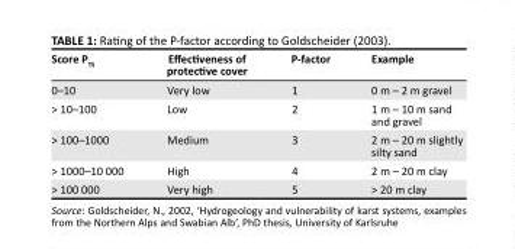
<table><thead><tr><td>Score P<sub>TS</sub></td><td>Effectiveness of protective cover</td><td>P-factor</td><td>Example</td></tr></thead><tbody><tr><td>0–10</td><td>Very low</td><td>1</td><td>0 m – 2 m gravel</td></tr><tr><td>&gt; 10–100</td><td>Low</td><td>2</td><td>1 m – 10 m sand and gravel</td></tr><tr><td>&gt; 100–1000</td><td>Medium</td><td>3</td><td>2 m – 20 m slightly silty sand</td></tr><tr><td>&gt; 1000–10 000</td><td>High</td><td>4</td><td>2 m – 20 m clay</td></tr><tr><td>&gt; 100 000</td><td>Very high</td><td>5</td><td>&gt; 20 m clay</td></tr></tbody></table>